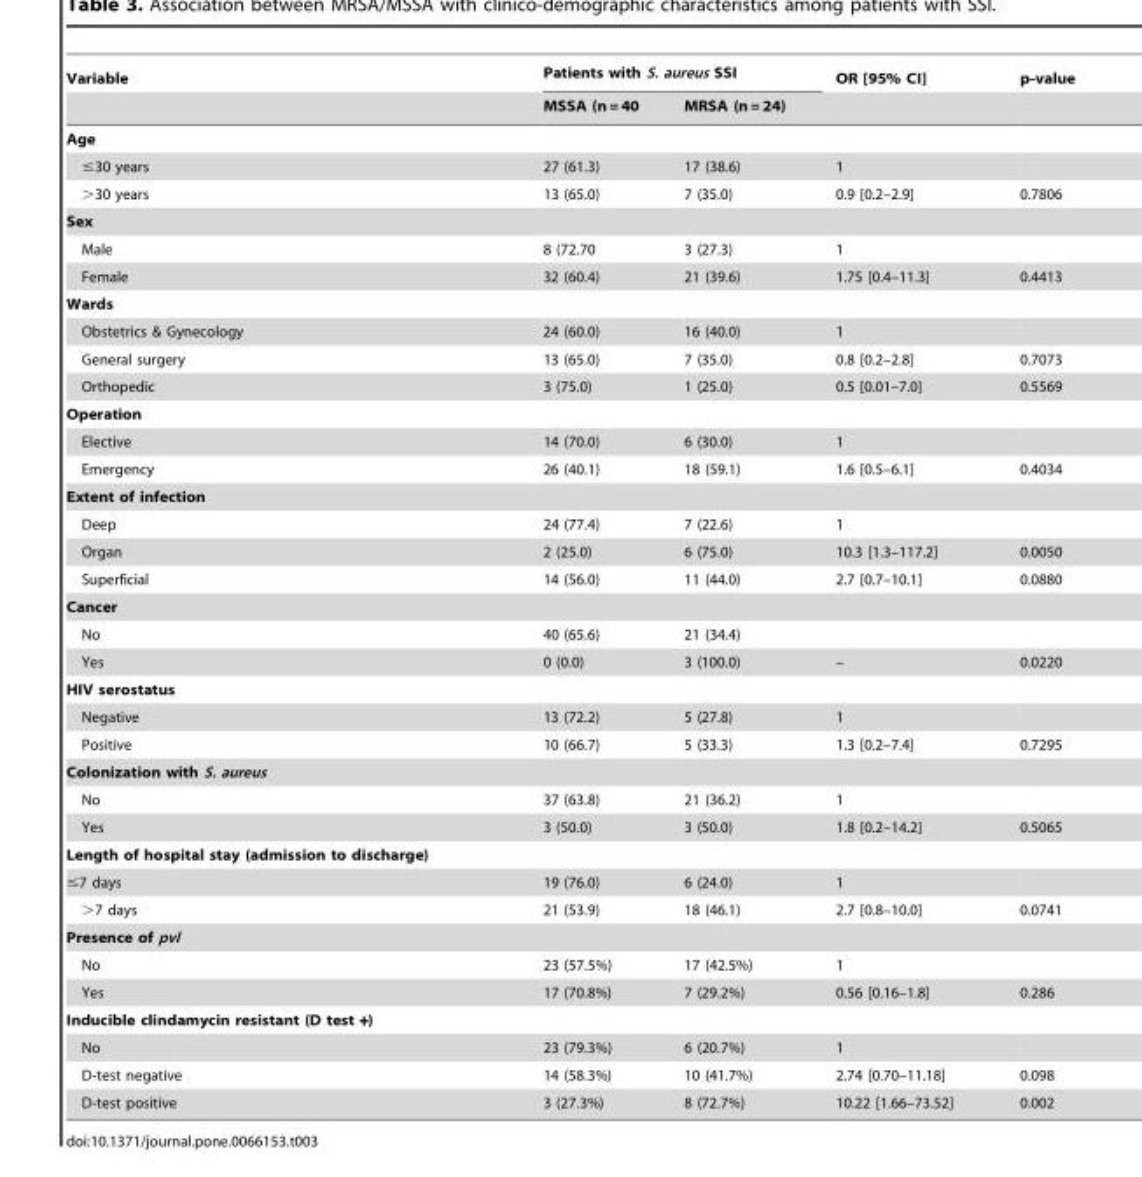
<table><thead><tr><td rowspan="2">Variable</td><td colspan="2">Patients with S. aureus SSI</td><td rowspan="2">OR [95% CI]</td><td rowspan="2">p-value</td></tr><tr><td>MSSA (n = 40</td><td>MRSA (n = 24)</td></tr></thead><tbody><tr><td colspan="5">Age</td></tr><tr><td>≤30 years</td><td>27 (61.3)</td><td>17 (38.6)</td><td>1</td><td></td></tr><tr><td>&gt;30 years</td><td>13 (65.0)</td><td>7 (35.0)</td><td>0.9 [0.2–2.9]</td><td>0.7806</td></tr><tr><td colspan="5">Sex</td></tr><tr><td>Male</td><td>8 (72.70</td><td>3 (27.3)</td><td>1</td><td></td></tr><tr><td>Female</td><td>32 (60.4)</td><td>21 (39.6)</td><td>1.75 [0.4–11.3]</td><td>0.4413</td></tr><tr><td colspan="5">Wards</td></tr><tr><td>Obstetrics &amp; Gynecology</td><td>24 (60.0)</td><td>16 (40.0)</td><td>1</td><td></td></tr><tr><td>General surgery</td><td>13 (65.0)</td><td>7 (35.0)</td><td>0.8 [0.2–2.8]</td><td>0.7073</td></tr><tr><td>Orthopedic</td><td>3 (75.0)</td><td>1 (25.0)</td><td>0.5 [0.01–7.0]</td><td>0.5569</td></tr><tr><td colspan="5">Operation</td></tr><tr><td>Elective</td><td>14 (70.0)</td><td>6 (30.0)</td><td>1</td><td></td></tr><tr><td>Emergency</td><td>26 (40.1)</td><td>18 (59.1)</td><td>1.6 [0.5–6.1]</td><td>0.4034</td></tr><tr><td colspan="5">Extent of infection</td></tr><tr><td>Deep</td><td>24 (77.4)</td><td>7 (22.6)</td><td>1</td><td></td></tr><tr><td>Organ</td><td>2 (25.0)</td><td>6 (75.0)</td><td>10.3 [1.3–117.2]</td><td>0.0050</td></tr><tr><td>Superficial</td><td>14 (56.0)</td><td>11 (44.0)</td><td>2.7 [0.7–10.1]</td><td>0.0880</td></tr><tr><td colspan="5">Cancer</td></tr><tr><td>No</td><td>40 (65.6)</td><td>21 (34.4)</td><td></td><td></td></tr><tr><td>Yes</td><td>0 (0.0)</td><td>3 (100.0)</td><td>–</td><td>0.0220</td></tr><tr><td colspan="5">HIV serostatus</td></tr><tr><td>Negative</td><td>13 (72.2)</td><td>5 (27.8)</td><td>1</td><td></td></tr><tr><td>Positive</td><td>10 (66.7)</td><td>5 (33.3)</td><td>1.3 [0.2–7.4]</td><td>0.7295</td></tr><tr><td colspan="5">Colonization with S. aureus</td></tr><tr><td>No</td><td>37 (63.8)</td><td>21 (36.2)</td><td>1</td><td></td></tr><tr><td>Yes</td><td>3 (50.0)</td><td>3 (50.0)</td><td>1.8 [0.2–14.2]</td><td>0.5065</td></tr><tr><td colspan="5">Length of hospital stay (admission to discharge)</td></tr><tr><td>≤7 days</td><td>19 (76.0)</td><td>6 (24.0)</td><td>1</td><td></td></tr><tr><td>&gt;7 days</td><td>21 (53.9)</td><td>18 (46.1)</td><td>2.7 [0.8–10.0]</td><td>0.0741</td></tr><tr><td colspan="5">Presence of pvl</td></tr><tr><td>No</td><td>23 (57.5%)</td><td>17 (42.5%)</td><td>1</td><td></td></tr><tr><td>Yes</td><td>17 (70.8%)</td><td>7 (29.2%)</td><td>0.56 [0.16–1.8]</td><td>0.286</td></tr><tr><td colspan="5">Inducible clindamycin resistant (D test +)</td></tr><tr><td>No</td><td>23 (79.3%)</td><td>6 (20.7%)</td><td>1</td><td></td></tr><tr><td>D-test negative</td><td>14 (58.3%)</td><td>10 (41.7%)</td><td>2.74 [0.70–11.18]</td><td>0.098</td></tr><tr><td>D-test positive</td><td>3 (27.3%)</td><td>8 (72.7%)</td><td>10.22 [1.66–73.52]</td><td>0.002</td></tr></tbody></table>